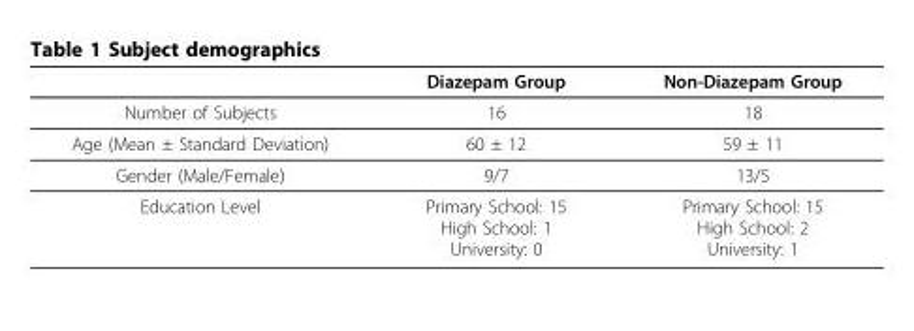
<table><thead><tr><td></td><td>Diazepam Group</td><td>Non-Diazepam Group</td></tr></thead><tbody><tr><td>Number of Subjects</td><td>16</td><td>18</td></tr><tr><td>Age (Mean ± Standard Deviation)</td><td>60 ± 12</td><td>59 ± 11</td></tr><tr><td>Gender (Male/Female)</td><td>9/7</td><td>13/5</td></tr><tr><td>Education Level</td><td>Primary School: 15 High School: 1 University: 0</td><td>Primary School: 15 High School: 2 University: 1</td></tr></tbody></table>